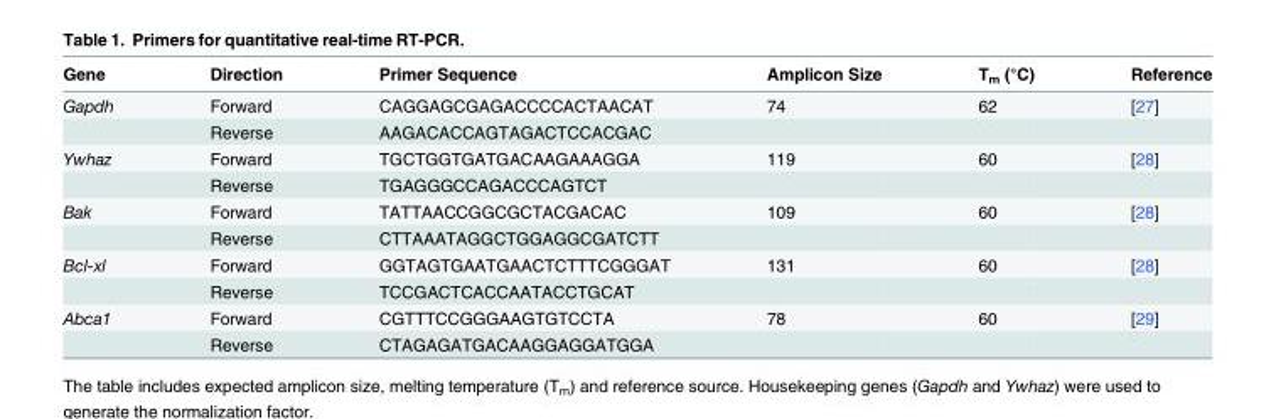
<table><thead><tr><td>Gene</td><td>Direction</td><td>Primer Sequence</td><td>Amplicon Size</td><td>T<sub>m</sub> (°C)</td><td>Reference</td></tr></thead><tbody><tr><td rowspan="2">Gapdh</td><td>Forward</td><td>CAGGAGCGAGACCCCACTAACAT</td><td>74</td><td>62</td><td>[27]</td></tr><tr><td>Reverse</td><td>AAGACACCAGTAGACTCCACGAC</td><td></td><td></td><td></td></tr><tr><td rowspan="2">Ywhaz</td><td>Forward</td><td>TGCTGGTGATGACAAGAAAGGA</td><td>119</td><td>60</td><td>[28]</td></tr><tr><td>Reverse</td><td>TGAGGGCCAGACCCAGTCT</td><td></td><td></td><td></td></tr><tr><td rowspan="2">Bak</td><td>Forward</td><td>TATTAACCGGCGCTACGACAC</td><td>109</td><td>60</td><td>[28]</td></tr><tr><td>Reverse</td><td>CTTAAATAGGCTGGAGGCGATCTT</td><td></td><td></td><td></td></tr><tr><td rowspan="2">Bcl-xl</td><td>Forward</td><td>GGTAGTGAATGAACTCTTTCGGGAT</td><td>131</td><td>60</td><td>[28]</td></tr><tr><td>Reverse</td><td>TCCGACTCACCAATACCTGCAT</td><td></td><td></td><td></td></tr><tr><td rowspan="2">Abca1</td><td>Forward</td><td>CGTTTCCGGGAAGTGTCCTA</td><td>78</td><td>60</td><td>[29]</td></tr><tr><td>Reverse</td><td>CTAGAGATGACAAGGAGGATGGA</td><td></td><td></td><td></td></tr></tbody></table>